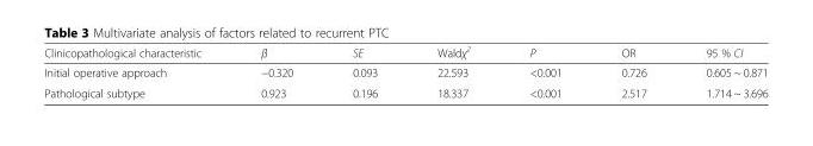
<table><thead><tr><td>Clinicopathological characteristic</td><td>β</td><td>SE</td><td>Waldχ<sup>2</sup></td><td>P</td><td>OR</td><td>95 % CI</td></tr></thead><tbody><tr><td>Initial operative approach</td><td>−0.320</td><td>0.093</td><td>22.593</td><td>&lt;0.001</td><td>0.726</td><td>0.605 ~ 0.871</td></tr><tr><td>Pathological subtype</td><td>0.923</td><td>0.196</td><td>18.337</td><td>&lt;0.001</td><td>2.517</td><td>1.714 ~ 3.696</td></tr></tbody></table>